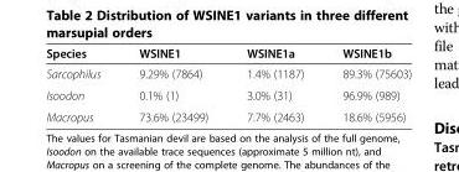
<table><thead><tr><td>Species</td><td>WSINE1</td><td>WSINE1a</td><td>WSINE1b</td></tr></thead><tbody><tr><td>Sarcophilus</td><td>9.29% (7864)</td><td>1.4% (1187)</td><td>89.3% (75603)</td></tr><tr><td>Isoodon</td><td>0.1% (1)</td><td>3.0% (31)</td><td>96.9% (989)</td></tr><tr><td>Macropus</td><td>73.6% (23499)</td><td>7.7% (2463)</td><td>18.6% (5956)</td></tr></tbody></table>